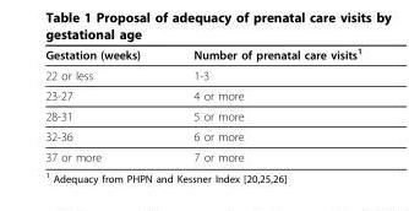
<table><thead><tr><td>Gestation (weeks)</td><td>Number of prenatal care visits<sup>1</sup></td></tr></thead><tbody><tr><td>22 or less</td><td>1-3</td></tr><tr><td>23-27</td><td>4 or more</td></tr><tr><td>28-31</td><td>5 or more</td></tr><tr><td>32-36</td><td>6 or more</td></tr><tr><td>37 or more</td><td>7 or more</td></tr></tbody></table>